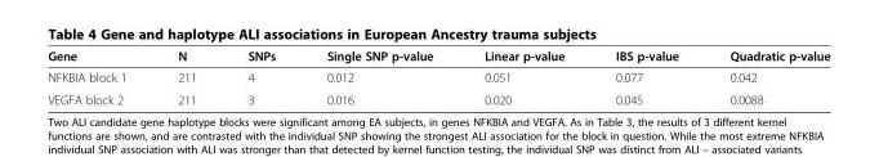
<table><thead><tr><td>Gene</td><td>N</td><td>SNPs</td><td>Single SNP p-value</td><td>Linear p-value</td><td>IBS p-value</td><td>Quadratic p-value</td></tr></thead><tbody><tr><td>NFKBIA block 1</td><td>211</td><td>4</td><td>0.012</td><td>0.051</td><td>0.077</td><td>0.042</td></tr><tr><td>VEGFA block 2</td><td>211</td><td>3</td><td>0.016</td><td>0.020</td><td>0.045</td><td>0.0088</td></tr></tbody></table>